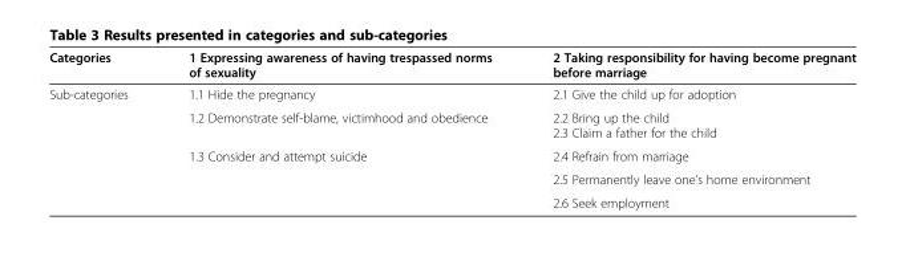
<table><thead><tr><td>Categories</td><td>1 Expressing awareness of having trespassed norms of sexuality</td><td>2 Taking responsibility for having become pregnant before marriage</td></tr></thead><tbody><tr><td rowspan="5">Sub-categories</td><td>1.1 Hide the pregnancy</td><td>2.1 Give the child up for adoption</td></tr><tr><td>1.2 Demonstrate self-blame, victimhood and obedience</td><td>2.2 Bring up the child 2.3 Claim a father for the child</td></tr><tr><td>1.3 Consider and attempt suicide</td><td>2.4 Refrain from marriage</td></tr><tr><td></td><td>2.5 Permanently leave one’s home environment</td></tr><tr><td></td><td>2.6 Seek employment</td></tr></tbody></table>